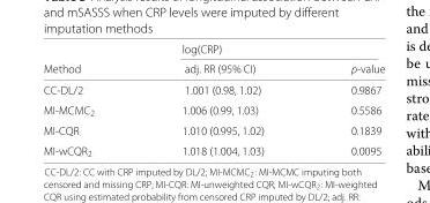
<table><thead><tr><td rowspan="2">Method</td><td colspan="2">log(CRP)</td></tr><tr><td>adj. RR (95% CI)</td><td>p-value</td></tr></thead><tbody><tr><td>CC-DL/2</td><td>1.001 (0.98, 1.02)</td><td>0.9867</td></tr><tr><td>MI-MCMC<sub>2</sub></td><td>1.006 (0.99, 1.03)</td><td>0.5586</td></tr><tr><td>MI-CQR</td><td>1.010 (0.995, 1.02)</td><td>0.1839</td></tr><tr><td>MI-wCQR<sub>2</sub></td><td>1.018 (1.004, 1.03)</td><td>0.0095</td></tr></tbody></table>